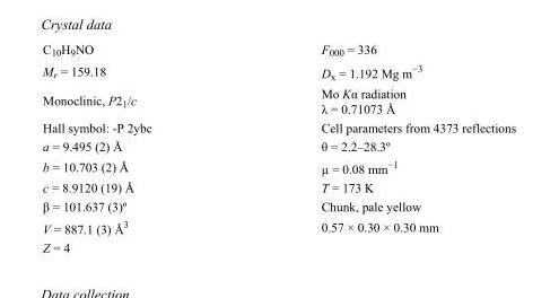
<table><tbody><tr><td>C<sub>10</sub>H<sub>9</sub>NO</td><td>F000 = 336</td></tr><tr><td>M<sub>r</sub> = 159.18</td><td>D<sub>x</sub> = 1.192 Mg m<sup>−3</sup></td></tr><tr><td>Monoclinic, P2<sub>1</sub>/c</td><td>Mo Kα radiation λ = 0.71073 Å</td></tr><tr><td>Hall symbol: -P 2ybc</td><td>Cell parameters from 4373 reflections</td></tr><tr><td>a = 9.495 (2) Å</td><td>θ = 2.2–28.3º</td></tr><tr><td>b = 10.703 (2) Å</td><td>µ = 0.08 mm<sup>−1</sup></td></tr><tr><td>c = 8.9120 (19) Å</td><td>T = 173 K</td></tr><tr><td>β = 101.637 (3)º</td><td>Chunk, pale yellow</td></tr><tr><td>V = 887.1 (3) Å<sup>3</sup></td><td>0.57 × 0.30 × 0.30 mm</td></tr><tr><td>Z = 4</td><td></td></tr></tbody></table>